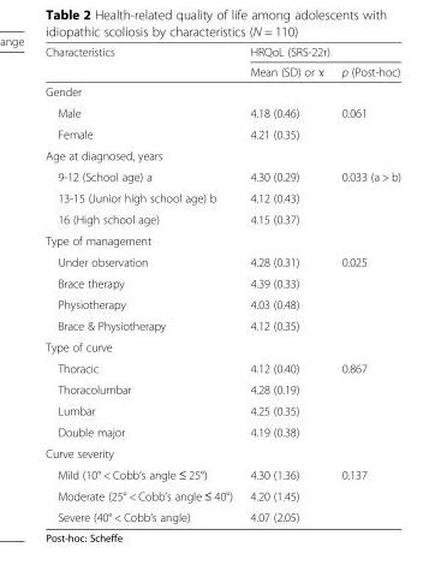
<table><thead><tr><td rowspan="2">Characteristics</td><td colspan="2">HRQoL (SRS-22r)</td></tr><tr><td>Mean (SD) or ɤ</td><td>p (Post-hoc)</td></tr></thead><tbody><tr><td colspan="3">Gender</td></tr><tr><td>Male</td><td>4.18 (0.46)</td><td>0.061</td></tr><tr><td>Female</td><td>4.21 (0.35)</td><td></td></tr><tr><td colspan="3">Age at diagnosed, years</td></tr><tr><td>9-12 (School age) a</td><td>4.30 (0.29)</td><td rowspan="3">0.033 (a &gt; b)</td></tr><tr><td>13-15 (Junior high school age) b</td><td>4.12 (0.43)</td></tr><tr><td>16 (High school age)</td><td>4.15 (0.37)</td></tr><tr><td colspan="3">Type of management</td></tr><tr><td>Under observation</td><td>4.28 (0.31)</td><td rowspan="4">0.025</td></tr><tr><td>Brace therapy</td><td>4.39 (0.33)</td></tr><tr><td>Physiotherapy</td><td>4.03 (0.48)</td></tr><tr><td>Brace &amp; Physiotherapy</td><td>4.12 (0.35)</td></tr><tr><td colspan="3">Type of curve</td></tr><tr><td>Thoracic</td><td>4.12 (0.40)</td><td rowspan="4">0.867</td></tr><tr><td>Thoracolumbar</td><td>4.28 (0.19)</td></tr><tr><td>Lumbar</td><td>4.25 (0.35)</td></tr><tr><td>Double major</td><td>4.19 (0.38)</td></tr><tr><td colspan="3">Curve severity</td></tr><tr><td>Mild (10° &lt; Cobb’s angle ≤ 25°)</td><td>4.30 (1.36)</td><td rowspan="3">0.137</td></tr><tr><td>Moderate (25° &lt; Cobb’s angle ≤ 40°)</td><td>4.20 (1.45)</td></tr><tr><td>Severe (40° &lt; Cobb’s angle)</td><td>4.07 (2.05)</td></tr></tbody></table>